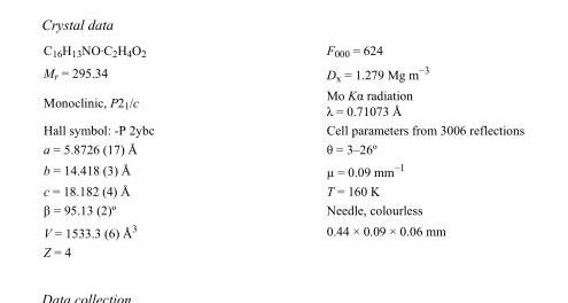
<table><tbody><tr><td>C<sub>16</sub>H<sub>13</sub>NO·C<sub>2</sub>H<sub>4</sub>O<sub>2</sub></td><td>F<sub>000</sub> = 624</td></tr><tr><td>M<sub>r</sub> = 295.34</td><td>D<sub>x</sub> = 1.279 Mg m<sup>−3</sup></td></tr><tr><td>Monoclinic, P2<sub>1</sub>/c</td><td>Mo Kα radiation λ = 0.71073 Å</td></tr><tr><td>Hall symbol: -P 2ybc</td><td>Cell parameters from 3006 reflections</td></tr><tr><td>a = 5.8726 (17) Å</td><td>θ = 3–26º</td></tr><tr><td>b = 14.418 (3) Å</td><td>µ = 0.09 mm<sup>−1</sup></td></tr><tr><td>c = 18.182 (4) Å</td><td>T = 160 K</td></tr><tr><td>β = 95.13 (2)º</td><td>Needle, colourless</td></tr><tr><td>V = 1533.3 (6) Å<sup>3</sup></td><td>0.44 × 0.09 × 0.06 mm</td></tr><tr><td>Z = 4</td><td></td></tr></tbody></table>